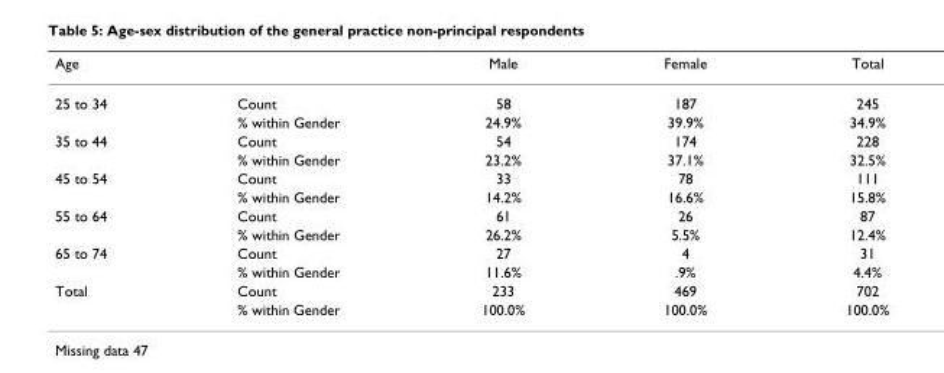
<table><thead><tr><td>Age</td><td></td><td>Male</td><td>Female</td><td>Total</td></tr></thead><tbody><tr><td rowspan="2">25 to 34</td><td>Count</td><td>58</td><td>187</td><td>245</td></tr><tr><td>% within Gender</td><td>24.9%</td><td>39.9%</td><td>34.9%</td></tr><tr><td rowspan="2">35 to 44</td><td>Count</td><td>54</td><td>174</td><td>228</td></tr><tr><td>% within Gender</td><td>23.2%</td><td>37.1%</td><td>32.5%</td></tr><tr><td rowspan="2">45 to 54</td><td>Count</td><td>33</td><td>78</td><td>111</td></tr><tr><td>% within Gender</td><td>14.2%</td><td>16.6%</td><td>15.8%</td></tr><tr><td rowspan="2">55 to 64</td><td>Count</td><td>61</td><td>26</td><td>87</td></tr><tr><td>% within Gender</td><td>26.2%</td><td>5.5%</td><td>12.4%</td></tr><tr><td rowspan="2">65 to 74</td><td>Count</td><td>27</td><td>4</td><td>31</td></tr><tr><td>% within Gender</td><td>11.6%</td><td>.9%</td><td>4.4%</td></tr><tr><td rowspan="2">Total</td><td>Count</td><td>233</td><td>469</td><td>702</td></tr><tr><td>% within Gender</td><td>100.0%</td><td>100.0%</td><td>100.0%</td></tr></tbody></table>